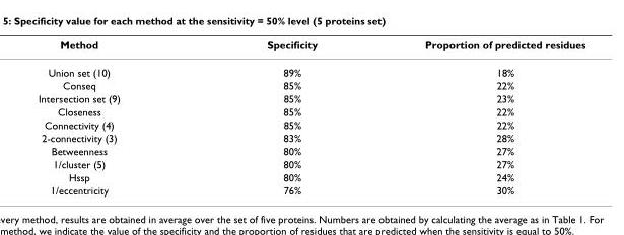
<table><thead><tr><td>Method</td><td>Specificity</td><td>Proportion of predicted residues</td></tr></thead><tbody><tr><td>Union set (10)</td><td>89%</td><td>18%</td></tr><tr><td>Conseq</td><td>85%</td><td>22%</td></tr><tr><td>Intersection set (9)</td><td>85%</td><td>23%</td></tr><tr><td>Closeness</td><td>85%</td><td>22%</td></tr><tr><td>Connectivity (4)</td><td>85%</td><td>22%</td></tr><tr><td>2-connectivity (3)</td><td>83%</td><td>28%</td></tr><tr><td>Betweenness</td><td>80%</td><td>27%</td></tr><tr><td>1/cluster (5)</td><td>80%</td><td>27%</td></tr><tr><td>Hssp</td><td>80%</td><td>24%</td></tr><tr><td>1/eccentricity</td><td>76%</td><td>30%</td></tr></tbody></table>